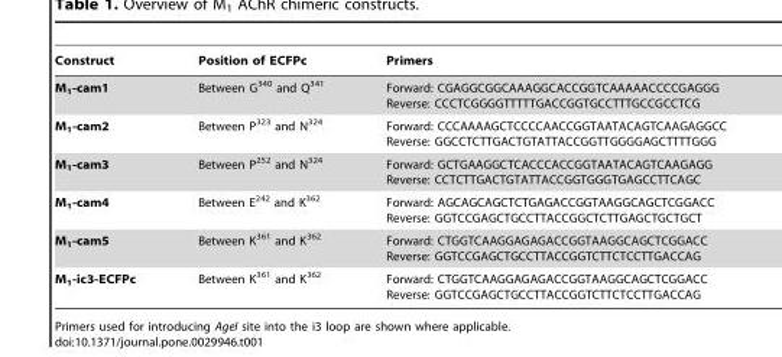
<table><thead><tr><td>Construct</td><td>Position of ECFPc</td><td>Primers</td></tr></thead><tbody><tr><td>M<sub>1</sub>-cam1</td><td>Between G<sup>340</sup> and Q<sup>341</sup></td><td>Forward: CGAGGCGGCAAAGGCACCGGTCAAAAACCCCGAGGG Reverse: CCCTCGGGGTTTTTGACCGGTGCCTTTGCCGCCTCG</td></tr><tr><td>M<sub>1</sub>-cam2</td><td>Between P<sup>323</sup> and N<sup>324</sup></td><td>Forward: CCCAAAAGCTCCCCAACCGGTAATACAGTCAAGAGGCC Reverse: GGCCTCTTGACTGTATTACCGGTTGGGGAGCTTTTGGG</td></tr><tr><td>M<sub>1</sub>-cam3</td><td>Between P<sup>252</sup> and N<sup>324</sup></td><td>Forward: GCTGAAGGCTCACCCACCGGTAATACAGTCAAGAGG Reverse: CCTCTTGACTGTATTACCGGTGGGTGAGCCTTCAGC</td></tr><tr><td>M<sub>1</sub>-cam4</td><td>Between E<sup>242</sup> and K<sup>362</sup></td><td>Forward: AGCAGCAGCTCTGAGACCGGTAAGGCAGCTCGGACC Reverse: GGTCCGAGCTGCCTTACCGGCTCTTGAGCTGCTGCT</td></tr><tr><td>M<sub>1</sub>-cam5</td><td>Between K<sup>361</sup> and K<sup>362</sup></td><td>Forward: CTGGTCAAGGAGAGACCGGTAAGGCAGCTCGGACC Reverse: GGTCCGAGCTGCCTTACCGGTCTTCTCCTTGACCAG</td></tr><tr><td>M<sub>1</sub>-ic3-ECFPc</td><td>Between K<sup>361</sup> and K<sup>362</sup></td><td>Forward: CTGGTCAAGGAGAGACCGGTAAGGCAGCTCGGACC Reverse: GGTCCGAGCTGCCTTACCGGTCTTCTCCTTGACCAG</td></tr></tbody></table>